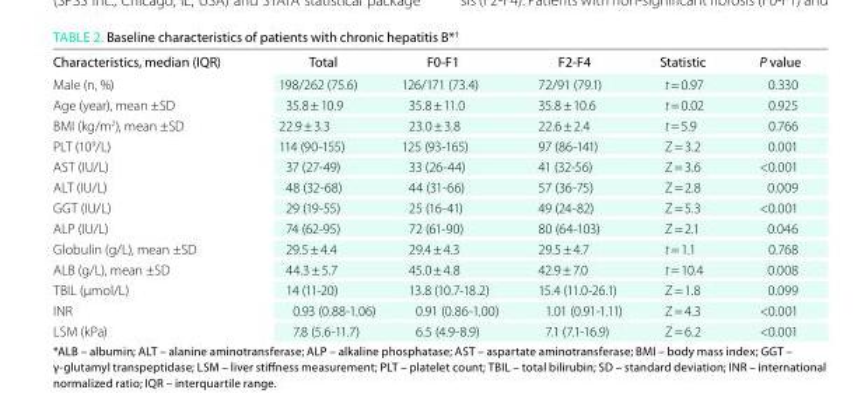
<table><thead><tr><td>Characteristics, median (IQR)</td><td>total</td><td>F0-F1</td><td>F2-F4</td><td>statistic</td><td>P value</td></tr></thead><tbody><tr><td>Male (n, %)</td><td>198/262 (75.6)</td><td>126/171 (73.4)</td><td>72/91 (79.1)</td><td>t = 0.97</td><td>0.330</td></tr><tr><td>Age (year), mean ±SD</td><td>35.8 ± 10.9</td><td>35.8 ± 11.0</td><td>35.8 ± 10.6</td><td>t = 0.02</td><td>0.925</td></tr><tr><td>BMI (kg/m<sup>2</sup>), mean ±SD</td><td>22.9 ± 3.3</td><td>23.0 ± 3.8</td><td>22.6 ± 2.4</td><td>t = 5.9</td><td>0.766</td></tr><tr><td>PLT (10<sup>9</sup>/L)</td><td>114 (90-155)</td><td>125 (93-165)</td><td>97 (86-141)</td><td>Z = 3.2</td><td>0.001</td></tr><tr><td>AST (IU/L)</td><td>37 (27-49)</td><td>33 (26-44)</td><td>41 (32-56)</td><td>Z = 3.6</td><td>&lt;0.001</td></tr><tr><td>ALT (IU/L)</td><td>48 (32-68)</td><td>44 (31-66)</td><td>57 (36-75)</td><td>Z = 2.8</td><td>0.009</td></tr><tr><td>GGT (IU/L)</td><td>29 (19-55)</td><td>25 (16-41)</td><td>49 (24-82)</td><td>Z = 5.3</td><td>&lt;0.001</td></tr><tr><td>ALP (IU/L)</td><td>74 (62-95)</td><td>72 (61-90)</td><td>80 (64-103)</td><td>Z = 2.1</td><td>0.046</td></tr><tr><td>Globulin (g/L), mean ±SD</td><td>29.5 ± 4.4</td><td>29.4 ± 4.3</td><td>29.5 ± 4.7</td><td>t = 1.1</td><td>0.768</td></tr><tr><td>ALB (g/L), mean ±SD</td><td>44.3 ± 5.7</td><td>45.0 ± 4.8</td><td>42.9 ± 7.0</td><td>t = 10.4</td><td>0.008</td></tr><tr><td>TBIL (μmol/L)</td><td>14 (11-20)</td><td>13.8 (10.7-18.2)</td><td>15.4 (11.0-26.1)</td><td>Z = 1.8</td><td>0.099</td></tr><tr><td>INR</td><td>0.93 (0.88-1.06)</td><td>0.91 (0.86-1.00)</td><td>1.01 (0.91-1.11)</td><td>Z = 4.3</td><td>&lt;0.001</td></tr><tr><td>LSM (kPa)</td><td>7.8 (5.6-11.7)</td><td>6.5 (4.9-8.9)</td><td>7.1 (7.1-16.9)</td><td>Z = 6.2</td><td>&lt;0.001</td></tr></tbody></table>